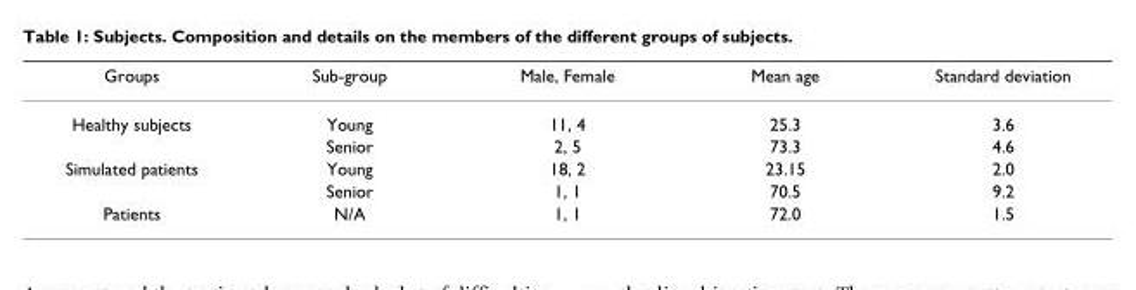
<table><thead><tr><td>Groups</td><td>Sub-group</td><td>Male, Female</td><td>Mean age</td><td>Standard deviation</td></tr></thead><tbody><tr><td rowspan="2">Healthy subjects</td><td>Young</td><td>11, 4</td><td>25.3</td><td>3.6</td></tr><tr><td>Senior</td><td>2, 5</td><td>73.3</td><td>4.6</td></tr><tr><td rowspan="2">Simulated patients</td><td>Young</td><td>18, 2</td><td>23.15</td><td>2.0</td></tr><tr><td>Senior</td><td>1, 1</td><td>70.5</td><td>9.2</td></tr><tr><td>Patients</td><td>N/A</td><td>1, 1</td><td>72.0</td><td>1.5</td></tr></tbody></table>